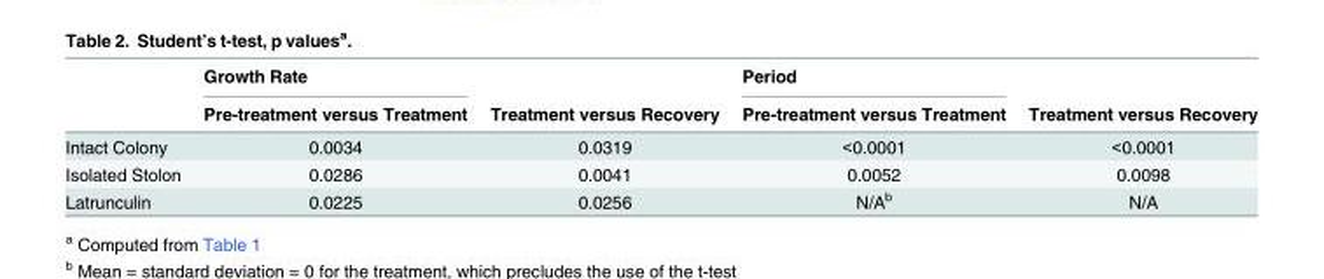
<table><thead><tr><td></td><td>Growth Rate</td><td></td><td>Period</td><td></td></tr></thead><tbody><tr><td></td><td>Pre-treatment versus Treatment</td><td>Treatment versus Recovery</td><td>Pre-treatment versus Treatment</td><td>Treatment versus Recovery</td></tr><tr><td>Intact Colony</td><td>0.0034</td><td>0.0319</td><td>&lt;0.0001</td><td>&lt;0.0001</td></tr><tr><td>Isolated Stolon</td><td>0.0286</td><td>0.0041</td><td>0.0052</td><td>0.0098</td></tr><tr><td>Latrunculin</td><td>0.0225</td><td>0.0256</td><td>N/A<sup>b</sup></td><td>N/A</td></tr></tbody></table>